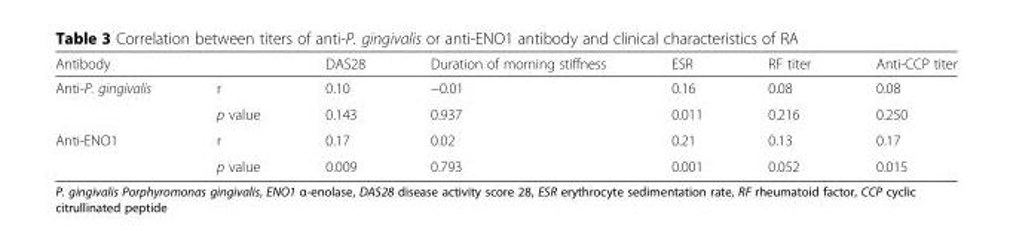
<table><thead><tr><td>Antibody</td><td></td><td>DAS28</td><td>Duration of morning stiffness</td><td>ESR</td><td>RF titer</td><td>Anti-CCP titer</td></tr></thead><tbody><tr><td rowspan="2">Anti-P. gingivalis</td><td>r</td><td>0.10</td><td>−0.01</td><td>0.16</td><td>0.08</td><td>0.08</td></tr><tr><td>p value</td><td>0.143</td><td>0.937</td><td>0.011</td><td>0.216</td><td>0.250</td></tr><tr><td rowspan="2">Anti-ENO1</td><td>r</td><td>0.17</td><td>0.02</td><td>0.21</td><td>0.13</td><td>0.17</td></tr><tr><td>p value</td><td>0.009</td><td>0.793</td><td>0.001</td><td>0.052</td><td>0.015</td></tr></tbody></table>